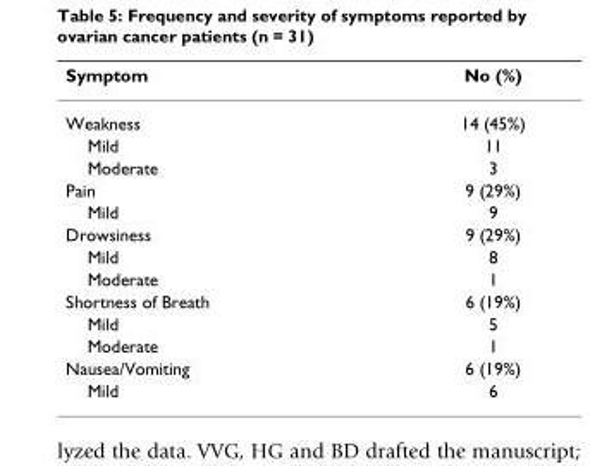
<table><thead><tr><td>Symptom</td><td>No (%)</td></tr></thead><tbody><tr><td>Weakness</td><td>14 (45%)</td></tr><tr><td>Mild</td><td>11</td></tr><tr><td>Moderate</td><td>3</td></tr><tr><td>Pain</td><td>9 (29%)</td></tr><tr><td>Mild</td><td>9</td></tr><tr><td>Drowsiness</td><td>9 (29%)</td></tr><tr><td>Mild</td><td>8</td></tr><tr><td>Moderate</td><td>1</td></tr><tr><td>Shortness of Breath</td><td>6 (19%)</td></tr><tr><td>Mild</td><td>5</td></tr><tr><td>Moderate</td><td>1</td></tr><tr><td>Nausea/Vomiting</td><td>6 (19%)</td></tr><tr><td>Mild</td><td>6</td></tr></tbody></table>